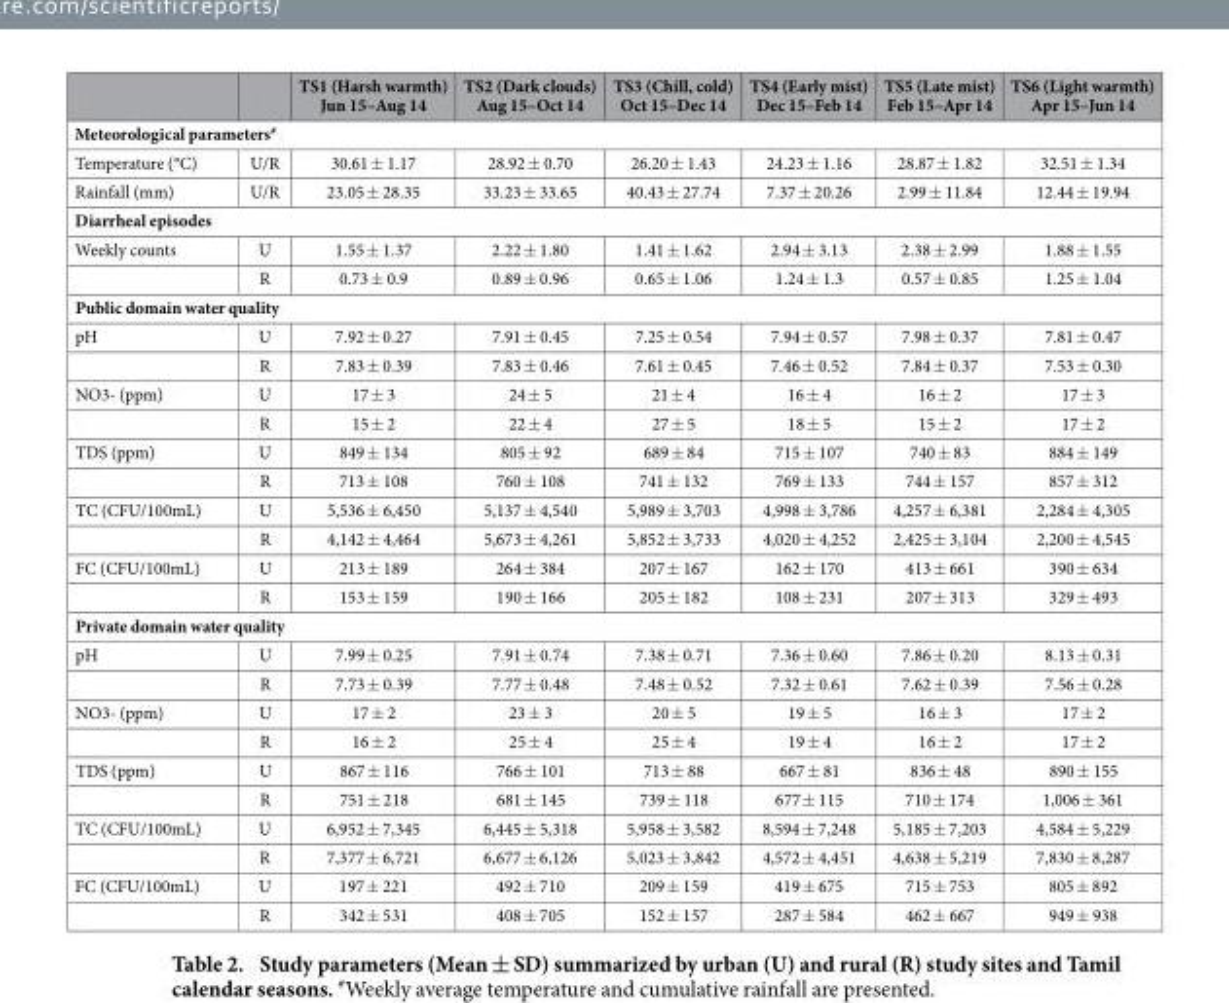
<table><thead><tr><td></td><td></td><td>TS1 (Harsh warmth) Jun 15–Aug 14</td><td>TS2 (Dark clouds) Aug 15–Oct 14</td><td>TS3 (Chill, cold) Oct 15–Dec 14</td><td>TS4 (Early mist) Dec 15–Feb 14</td><td>TS5 (Late mist) Feb 15–Apr 14</td><td>TS6 (Light warmth) Apr 15–Jun 14</td></tr></thead><tbody><tr><td colspan="8">Meteorological parameters#</td></tr><tr><td>Temperature (°C)</td><td>U/R</td><td>30.61 ± 1.17</td><td>28.92 ± 0.70</td><td>26.20 ± 1.43</td><td>24.23 ± 1.16</td><td>28.87 ± 1.82</td><td>32.51 ± 1.34</td></tr><tr><td>Rainfall (mm)</td><td>U/R</td><td>23.05 ± 28.35</td><td>33.23 ± 33.65</td><td>40.43 ± 27.74</td><td>7.37 ± 20.26</td><td>2.99 ± 11.84</td><td>12.44 ± 19.94</td></tr><tr><td colspan="8">Diarrheal episodes</td></tr><tr><td rowspan="2">Weekly counts</td><td>U</td><td>1.55 ± 1.37</td><td>2.22 ± 1.80</td><td>1.41 ± 1.62</td><td>2.94 ± 3.13</td><td>2.38 ± 2.99</td><td>1.88 ± 1.55</td></tr><tr><td>R</td><td>0.73 ± 0.9</td><td>0.89 ± 0.96</td><td>0.65 ± 1.06</td><td>1.24 ± 1.3</td><td>0.57 ± 0.85</td><td>1.25 ± 1.04</td></tr><tr><td colspan="8">Public domain water quality</td></tr><tr><td rowspan="2">pH</td><td>U</td><td>7.92 ± 0.27</td><td>7.91 ± 0.45</td><td>7.25 ± 0.54</td><td>7.94 ± 0.57</td><td>7.98 ± 0.37</td><td>7.81 ± 0.47</td></tr><tr><td>R</td><td>7.83 ± 0.39</td><td>7.83 ± 0.46</td><td>7.61 ± 0.45</td><td>7.46 ± 0.52</td><td>7.84 ± 0.37</td><td>7.53 ± 0.30</td></tr><tr><td rowspan="2">NO3- (ppm)</td><td>U</td><td>17 ± 3</td><td>24 ± 5</td><td>21 ± 4</td><td>16 ± 4</td><td>16 ± 2</td><td>17 ± 3</td></tr><tr><td>R</td><td>15 ± 2</td><td>22 ± 4</td><td>27 ± 5</td><td>18 ± 5</td><td>15 ± 2</td><td>17 ± 2</td></tr><tr><td rowspan="2">TDS (ppm)</td><td>U</td><td>849 ± 134</td><td>805 ± 92</td><td>689 ± 84</td><td>715 ± 107</td><td>740 ± 83</td><td>884 ± 149</td></tr><tr><td>R</td><td>713 ± 108</td><td>760 ± 108</td><td>741 ± 132</td><td>769 ± 133</td><td>744 ± 157</td><td>857 ± 312</td></tr><tr><td rowspan="2">TC (CFU/100mL)</td><td>U</td><td>5,536 ± 6,450</td><td>5,137 ± 4,540</td><td>5,989 ± 3,703</td><td>4,998 ± 3,786</td><td>4,257 ± 6,381</td><td>2,284 ± 4,305</td></tr><tr><td>R</td><td>4,142 ± 4,464</td><td>5,673 ± 4,261</td><td>5,852 ± 3,733</td><td>4,020 ± 4,252</td><td>2,425 ± 3,104</td><td>2,200 ± 4,545</td></tr><tr><td rowspan="2">FC (CFU/100mL)</td><td>U</td><td>213 ± 189</td><td>264 ± 384</td><td>207 ± 167</td><td>162 ± 170</td><td>413 ± 661</td><td>390 ± 634</td></tr><tr><td>R</td><td>153 ± 159</td><td>190 ± 166</td><td>205 ± 182</td><td>108 ± 231</td><td>207 ± 313</td><td>329 ± 493</td></tr><tr><td colspan="8">Private domain water quality</td></tr><tr><td rowspan="2">pH</td><td>U</td><td>7.99 ± 0.25</td><td>7.91 ± 0.74</td><td>7.38 ± 0.71</td><td>7.36 ± 0.60</td><td>7.86 ± 0.20</td><td>8.13 ± 0.31</td></tr><tr><td>R</td><td>7.73 ± 0.39</td><td>7.77 ± 0.48</td><td>7.48 ± 0.52</td><td>7.32 ± 0.61</td><td>7.62 ± 0.39</td><td>7.56 ± 0.28</td></tr><tr><td rowspan="2">NO3- (ppm)</td><td>U</td><td>17 ± 2</td><td>23 ± 3</td><td>20 ± 5</td><td>19 ± 5</td><td>16 ± 3</td><td>17 ± 2</td></tr><tr><td>R</td><td>16 ± 2</td><td>25 ± 4</td><td>25 ± 4</td><td>19 ± 4</td><td>16 ± 2</td><td>17 ± 2</td></tr><tr><td rowspan="2">TDS (ppm)</td><td>U</td><td>867 ± 116</td><td>766 ± 101</td><td>713 ± 88</td><td>667 ± 81</td><td>836 ± 48</td><td>890 ± 155</td></tr><tr><td>R</td><td>751 ± 218</td><td>681 ± 145</td><td>739 ± 118</td><td>677 ± 115</td><td>710 ± 174</td><td>1,006 ± 361</td></tr><tr><td rowspan="2">TC (CFU/100mL)</td><td>U</td><td>6,952 ± 7,345</td><td>6,445 ± 5,318</td><td>5,958 ± 3,582</td><td>8,594 ± 7,248</td><td>5,185 ± 7,203</td><td>4,584 ± 5,229</td></tr><tr><td>R</td><td>7,377 ± 6,721</td><td>6,677 ± 6,126</td><td>5,023 ± 3,842</td><td>4,572 ± 4,451</td><td>4,638 ± 5,219</td><td>7,830 ± 8,287</td></tr><tr><td rowspan="2">FC (CFU/100mL)</td><td>U</td><td>197 ± 221</td><td>492 ± 710</td><td>209 ± 159</td><td>419 ± 675</td><td>715 ± 753</td><td>805 ± 892</td></tr><tr><td>R</td><td>342 ± 531</td><td>408 ± 705</td><td>152 ± 157</td><td>287 ± 584</td><td>462 ± 667</td><td>949 ± 938</td></tr></tbody></table>